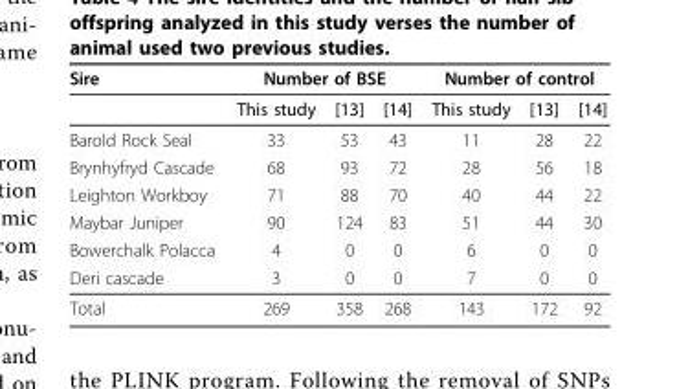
<table><thead><tr><td rowspan="2">Sire</td><td colspan="3">Number of BSE</td><td colspan="3">Number of control</td></tr><tr><td>This study</td><td>[13]</td><td>[14]</td><td>This study</td><td>[13]</td><td>[14]</td></tr></thead><tbody><tr><td>Barold Rock Seal</td><td>33</td><td>53</td><td>43</td><td>11</td><td>28</td><td>22</td></tr><tr><td>Brynhyfryd Cascade</td><td>68</td><td>93</td><td>72</td><td>28</td><td>56</td><td>18</td></tr><tr><td>Leighton Workboy</td><td>71</td><td>88</td><td>70</td><td>40</td><td>44</td><td>22</td></tr><tr><td>Maybar Juniper</td><td>90</td><td>124</td><td>83</td><td>51</td><td>44</td><td>30</td></tr><tr><td>Bowerchalk Polacca</td><td>4</td><td>0</td><td>0</td><td>6</td><td>0</td><td>0</td></tr><tr><td>Deri cascade</td><td>3</td><td>0</td><td>0</td><td>7</td><td>0</td><td>0</td></tr><tr><td>Total</td><td>269</td><td>358</td><td>268</td><td>143</td><td>172</td><td>92</td></tr></tbody></table>